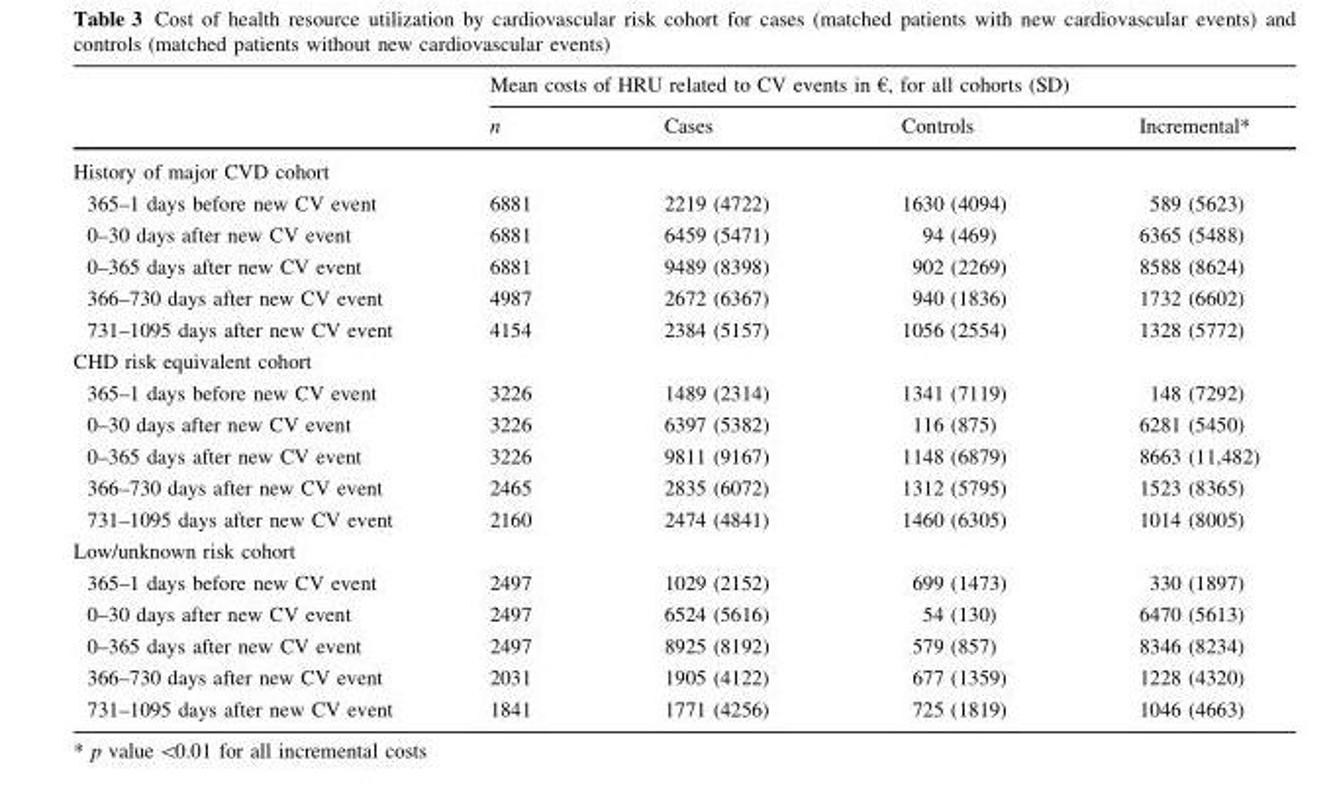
<table><thead><tr><td rowspan="2"></td><td colspan="4">Mean costs of HRU related to CV events in €, for all cohorts (SD)</td></tr><tr><td>n</td><td>Cases</td><td>Controls</td><td>Incremental*</td></tr></thead><tbody><tr><td colspan="5">History of major CVD cohort</td></tr><tr><td>365–1 days before new CV event</td><td>6881</td><td>2219 (4722)</td><td>1630 (4094)</td><td>589 (5623)</td></tr><tr><td>0–30 days after new CV event</td><td>6881</td><td>6459 (5471)</td><td>94 (469)</td><td>6365 (5488)</td></tr><tr><td>0–365 days after new CV event</td><td>6881</td><td>9489 (8398)</td><td>902 (2269)</td><td>8588 (8624)</td></tr><tr><td>366–730 days after new CV event</td><td>4987</td><td>2672 (6367)</td><td>940 (1836)</td><td>1732 (6602)</td></tr><tr><td>731–1095 days after new CV event</td><td>4154</td><td>2384 (5157)</td><td>1056 (2554)</td><td>1328 (5772)</td></tr><tr><td colspan="5">CHD risk equivalent cohort</td></tr><tr><td>365–1 days before new CV event</td><td>3226</td><td>1489 (2314)</td><td>1341 (7119)</td><td>148 (7292)</td></tr><tr><td>0–30 days after new CV event</td><td>3226</td><td>6397 (5382)</td><td>116 (875)</td><td>6281 (5450)</td></tr><tr><td>0–365 days after new CV event</td><td>3226</td><td>9811 (9167)</td><td>1148 (6879)</td><td>8663 (11,482)</td></tr><tr><td>366–730 days after new CV event</td><td>2465</td><td>2835 (6072)</td><td>1312 (5795)</td><td>1523 (8365)</td></tr><tr><td>731–1095 days after new CV event</td><td>2160</td><td>2474 (4841)</td><td>1460 (6305)</td><td>1014 (8005)</td></tr><tr><td colspan="5">Low/unknown risk cohort</td></tr><tr><td>365–1 days before new CV event</td><td>2497</td><td>1029 (2152)</td><td>699 (1473)</td><td>330 (1897)</td></tr><tr><td>0–30 days after new CV event</td><td>2497</td><td>6524 (5616)</td><td>54 (130)</td><td>6470 (5613)</td></tr><tr><td>0–365 days after new CV event</td><td>2497</td><td>8925 (8192)</td><td>579 (857)</td><td>8346 (8234)</td></tr><tr><td>366–730 days after new CV event</td><td>2031</td><td>1905 (4122)</td><td>677 (1359)</td><td>1228 (4320)</td></tr><tr><td>731–1095 days after new CV event</td><td>1841</td><td>1771 (4256)</td><td>725 (1819)</td><td>1046 (4663)</td></tr></tbody></table>